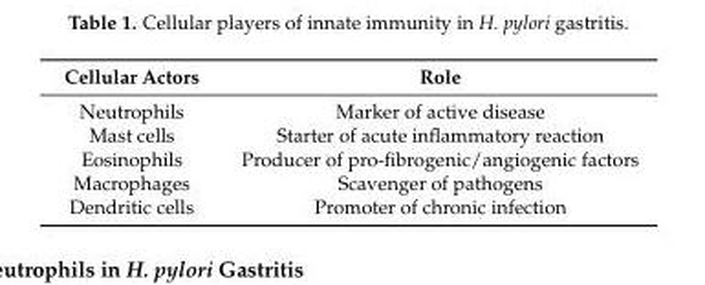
<table><thead><tr><td>Cellular Actors</td><td>Role</td></tr></thead><tbody><tr><td>Neutrophils</td><td>Marker of active disease</td></tr><tr><td>Mast cells</td><td>Starter of acute inflammatory reaction</td></tr><tr><td>Eosinophils</td><td>Producer of pro-fibrogenic/angiogenic factors</td></tr><tr><td>Macrophages</td><td>Scavenger of pathogens</td></tr><tr><td>Dendritic cells</td><td>Promoter of chronic infection</td></tr></tbody></table>